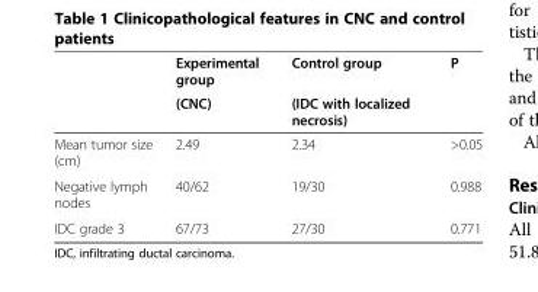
<table><thead><tr><td rowspan="2"></td><td rowspan="2">Experimental group (CNC)</td><td rowspan="2">Control group (IDC with localized necrosis)</td><td rowspan="2">P</td></tr><tr></tr></thead><tbody><tr><td>Mean tumor size (cm)</td><td>2.49</td><td>2.34</td><td>&gt;0.05</td></tr><tr><td>Negative lymph nodes</td><td>40/62</td><td>19/30</td><td>0.988</td></tr><tr><td>IDC grade 3</td><td>67/73</td><td>27/30</td><td>0.771</td></tr></tbody></table>